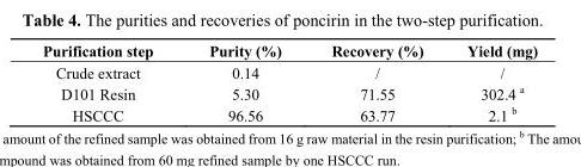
<table><thead><tr><td>Purification step</td><td>Purity (%)</td><td>Recovery (%)</td><td>Yield (mg)</td></tr></thead><tbody><tr><td>Crude extract</td><td>0.14</td><td>/</td><td>/</td></tr><tr><td>D101 Resin</td><td>5.30</td><td>71.55</td><td>302.4 a</td></tr><tr><td>HSCCC</td><td>96.56</td><td>63.77</td><td>2.1 b</td></tr></tbody></table>